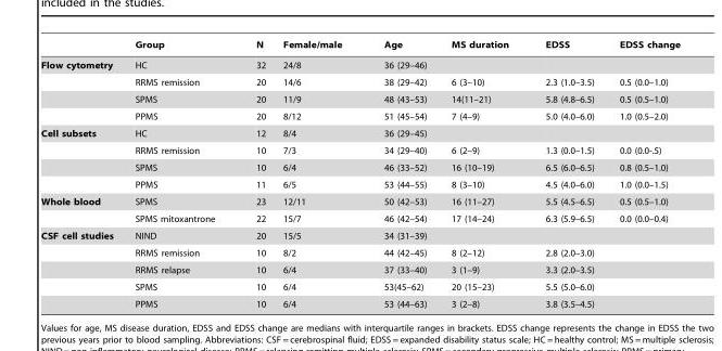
<table><thead><tr><td></td><td>Group</td><td>N</td><td>Female/male</td><td>Age</td><td>MS duration</td><td>EDSS</td><td>EDSS change</td></tr></thead><tbody><tr><td rowspan="4">Flow cytometry</td><td>HC</td><td>32</td><td>24/8</td><td>36 (29–46)</td><td></td><td></td><td></td></tr><tr><td>RRMS remission</td><td>20</td><td>14/6</td><td>38 (29–42)</td><td>6 (3–10)</td><td>2.3 (1.0–3.5)</td><td>0.5 (0.0–1.0)</td></tr><tr><td>SPMS</td><td>20</td><td>11/9</td><td>48 (43–53)</td><td>14(11–21)</td><td>5.8 (4.8–6.5)</td><td>0.5 (0.5–1.0)</td></tr><tr><td>PPMS</td><td>20</td><td>8/12</td><td>51 (45–54)</td><td>7 (4–9)</td><td>5.0 (4.0–6.0)</td><td>1.0 (0.5–2.0)</td></tr><tr><td rowspan="4">Cell subsets</td><td>HC</td><td>12</td><td>8/4</td><td>36 (29–45)</td><td></td><td></td><td></td></tr><tr><td>RRMS remission</td><td>10</td><td>7/3</td><td>34 (29–40)</td><td>6 (2–9)</td><td>1.3 (0.0–1.5)</td><td>0.0 (0.0-.5)</td></tr><tr><td>SPMS</td><td>10</td><td>6/4</td><td>46 (33–52)</td><td>16 (10–19)</td><td>6.5 (6.0–6.5)</td><td>0.8 (0.5–1.0)</td></tr><tr><td>PPMS</td><td>11</td><td>6/5</td><td>53 (44–55)</td><td>8 (3–10)</td><td>4.5 (4.0–6.0)</td><td>1.0 (0.0–1.5)</td></tr><tr><td rowspan="2">Whole blood</td><td>SPMS</td><td>23</td><td>12/11</td><td>50 (42–53)</td><td>16 (11–27)</td><td>5.5 (4.5–6.5)</td><td>0.5 (0.5–1.0)</td></tr><tr><td>SPMS mitoxantrone</td><td>22</td><td>15/7</td><td>46 (42–54)</td><td>17 (14–24)</td><td>6.3 (5.9–6.5)</td><td>0.0 (0.0–0.4)</td></tr><tr><td rowspan="5">CSF cell studies</td><td>NIND</td><td>20</td><td>15/5</td><td>34 (31–39)</td><td></td><td></td><td></td></tr><tr><td>RRMS remission</td><td>10</td><td>8/2</td><td>44 (42–45)</td><td>8 (2–12)</td><td>2.8 (2.0–3.0)</td><td></td></tr><tr><td>RRMS relapse</td><td>10</td><td>6/4</td><td>37 (33–40)</td><td>3 (1–9)</td><td>3.3 (2.0–3.5)</td><td></td></tr><tr><td>SPMS</td><td>10</td><td>6/4</td><td>53(45–62)</td><td>20 (15–23)</td><td>5.5 (5.0–6.0)</td><td></td></tr><tr><td>PPMS</td><td>10</td><td>6/4</td><td>53 (44–63)</td><td>3 (2–8)</td><td>3.8 (3.5–4.5)</td><td></td></tr></tbody></table>